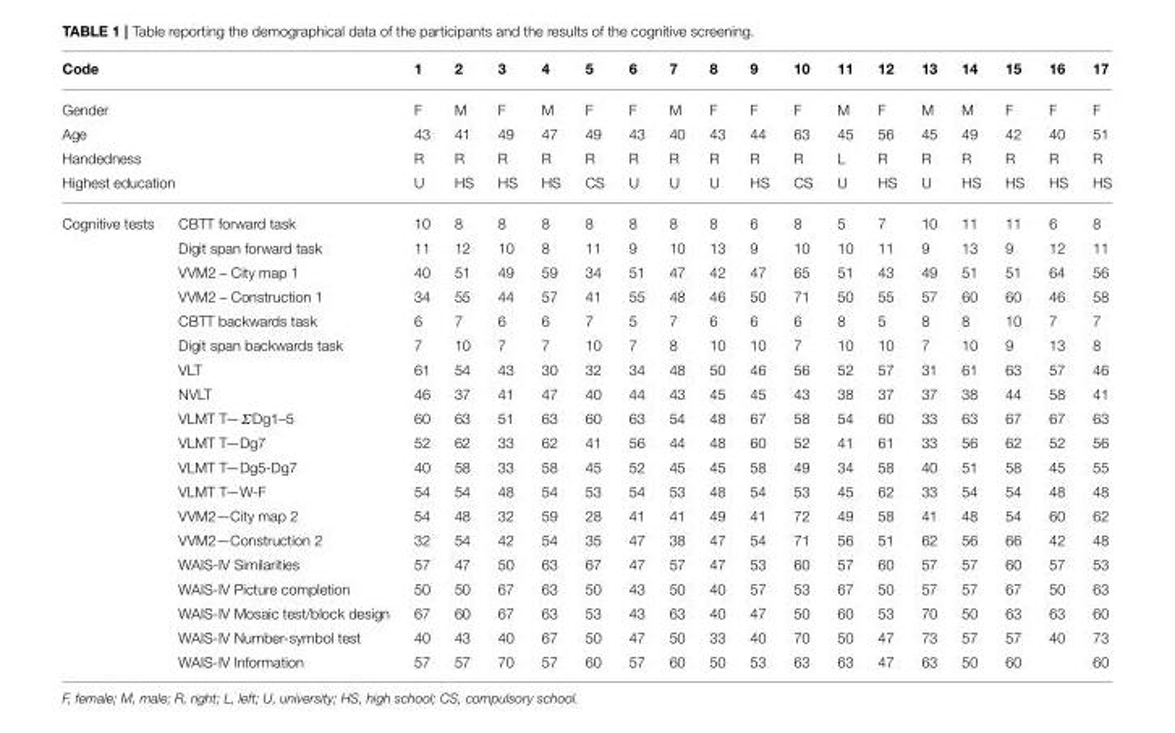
<table><thead><tr><td colspan="2">Code</td><td>1</td><td>2</td><td>3</td><td>4</td><td>5</td><td>6</td><td>7</td><td>8</td><td>9</td><td>10</td><td>11</td><td>12</td><td>13</td><td>14</td><td>15</td><td>16</td><td>17</td></tr></thead><tbody><tr><td colspan="2">Gender</td><td>F</td><td>M</td><td>F</td><td>M</td><td>F</td><td>F</td><td>M</td><td>F</td><td>F</td><td>F</td><td>M</td><td>F</td><td>M</td><td>M</td><td>F</td><td>F</td><td>F</td></tr><tr><td colspan="2">Age</td><td>43</td><td>41</td><td>49</td><td>47</td><td>49</td><td>43</td><td>40</td><td>43</td><td>44</td><td>63</td><td>45</td><td>56</td><td>45</td><td>49</td><td>42</td><td>40</td><td>51</td></tr><tr><td colspan="2">Handedness</td><td>R</td><td>R</td><td>R</td><td>R</td><td>R</td><td>R</td><td>R</td><td>R</td><td>R</td><td>R</td><td>L</td><td>R</td><td>R</td><td>R</td><td>R</td><td>R</td><td>R</td></tr><tr><td colspan="2">Highest education</td><td>U</td><td>HS</td><td>HS</td><td>HS</td><td>CS</td><td>U</td><td>U</td><td>U</td><td>HS</td><td>CS</td><td>U</td><td>HS</td><td>U</td><td>HS</td><td>HS</td><td>HS</td><td>HS</td></tr><tr><td rowspan="19">Cognitive tests</td><td>CBTT forward task</td><td>10</td><td>8</td><td>8</td><td>8</td><td>8</td><td>8</td><td>8</td><td>8</td><td>6</td><td>8</td><td>5</td><td>7</td><td>10</td><td>11</td><td>11</td><td>6</td><td>8</td></tr><tr><td>Digit span forward task</td><td>11</td><td>12</td><td>10</td><td>8</td><td>11</td><td>9</td><td>10</td><td>13</td><td>9</td><td>10</td><td>10</td><td>11</td><td>9</td><td>13</td><td>9</td><td>12</td><td>11</td></tr><tr><td>VVM2 – City map 1</td><td>40</td><td>51</td><td>49</td><td>59</td><td>34</td><td>51</td><td>47</td><td>42</td><td>47</td><td>65</td><td>51</td><td>43</td><td>49</td><td>51</td><td>51</td><td>64</td><td>56</td></tr><tr><td>VVM2 – Construction 1</td><td>34</td><td>55</td><td>44</td><td>57</td><td>41</td><td>55</td><td>48</td><td>46</td><td>50</td><td>71</td><td>50</td><td>55</td><td>57</td><td>60</td><td>60</td><td>46</td><td>58</td></tr><tr><td>CBTT backwards task</td><td>6</td><td>7</td><td>6</td><td>6</td><td>7</td><td>5</td><td>7</td><td>6</td><td>6</td><td>6</td><td>8</td><td>5</td><td>8</td><td>8</td><td>10</td><td>7</td><td>7</td></tr><tr><td>Digit span backwards task</td><td>7</td><td>10</td><td>7</td><td>7</td><td>10</td><td>7</td><td>8</td><td>10</td><td>10</td><td>7</td><td>10</td><td>10</td><td>7</td><td>10</td><td>9</td><td>13</td><td>8</td></tr><tr><td>VLT</td><td>61</td><td>54</td><td>43</td><td>30</td><td>32</td><td>34</td><td>48</td><td>50</td><td>46</td><td>56</td><td>52</td><td>57</td><td>31</td><td>61</td><td>63</td><td>57</td><td>46</td></tr><tr><td>NVLT</td><td>46</td><td>37</td><td>41</td><td>47</td><td>40</td><td>44</td><td>43</td><td>45</td><td>45</td><td>43</td><td>38</td><td>37</td><td>37</td><td>38</td><td>44</td><td>58</td><td>41</td></tr><tr><td>VLMT T—ΣDg1–5</td><td>60</td><td>63</td><td>51</td><td>63</td><td>60</td><td>63</td><td>54</td><td>48</td><td>67</td><td>58</td><td>54</td><td>60</td><td>33</td><td>63</td><td>67</td><td>67</td><td>63</td></tr><tr><td>VLMT T—Dg7</td><td>52</td><td>62</td><td>33</td><td>62</td><td>41</td><td>56</td><td>44</td><td>48</td><td>60</td><td>52</td><td>41</td><td>61</td><td>33</td><td>56</td><td>62</td><td>52</td><td>56</td></tr><tr><td>VLMT T—Dg5-Dg7</td><td>40</td><td>58</td><td>33</td><td>58</td><td>45</td><td>52</td><td>45</td><td>45</td><td>58</td><td>49</td><td>34</td><td>58</td><td>40</td><td>51</td><td>58</td><td>45</td><td>55</td></tr><tr><td>VLMT T—W-F</td><td>54</td><td>54</td><td>48</td><td>54</td><td>53</td><td>54</td><td>53</td><td>48</td><td>54</td><td>53</td><td>45</td><td>62</td><td>33</td><td>54</td><td>54</td><td>48</td><td>48</td></tr><tr><td>VVM2—City map 2</td><td>54</td><td>48</td><td>32</td><td>59</td><td>28</td><td>41</td><td>41</td><td>49</td><td>41</td><td>72</td><td>49</td><td>58</td><td>41</td><td>48</td><td>54</td><td>60</td><td>62</td></tr><tr><td>VVM2—Construction 2</td><td>32</td><td>54</td><td>42</td><td>54</td><td>35</td><td>47</td><td>38</td><td>47</td><td>54</td><td>71</td><td>56</td><td>51</td><td>62</td><td>56</td><td>66</td><td>42</td><td>48</td></tr><tr><td>WAIS-IV Similarities</td><td>57</td><td>47</td><td>50</td><td>63</td><td>67</td><td>47</td><td>57</td><td>47</td><td>53</td><td>60</td><td>57</td><td>60</td><td>57</td><td>57</td><td>60</td><td>57</td><td>53</td></tr><tr><td>WAIS-IV Picture completion</td><td>50</td><td>50</td><td>67</td><td>63</td><td>50</td><td>43</td><td>50</td><td>40</td><td>57</td><td>53</td><td>67</td><td>50</td><td>57</td><td>57</td><td>67</td><td>50</td><td>63</td></tr><tr><td>WAIS-IV Mosaic test/block design</td><td>67</td><td>60</td><td>67</td><td>63</td><td>53</td><td>43</td><td>63</td><td>40</td><td>47</td><td>50</td><td>60</td><td>53</td><td>70</td><td>50</td><td>63</td><td>63</td><td>60</td></tr><tr><td>WAIS-IV Number-symbol test</td><td>40</td><td>43</td><td>40</td><td>67</td><td>50</td><td>47</td><td>50</td><td>33</td><td>40</td><td>70</td><td>50</td><td>47</td><td>73</td><td>57</td><td>57</td><td>40</td><td>73</td></tr><tr><td>WAIS-IV Information</td><td>57</td><td>57</td><td>70</td><td>57</td><td>60</td><td>57</td><td>60</td><td>50</td><td>53</td><td>63</td><td>63</td><td>47</td><td>63</td><td>50</td><td>60</td><td></td><td>60</td></tr></tbody></table>